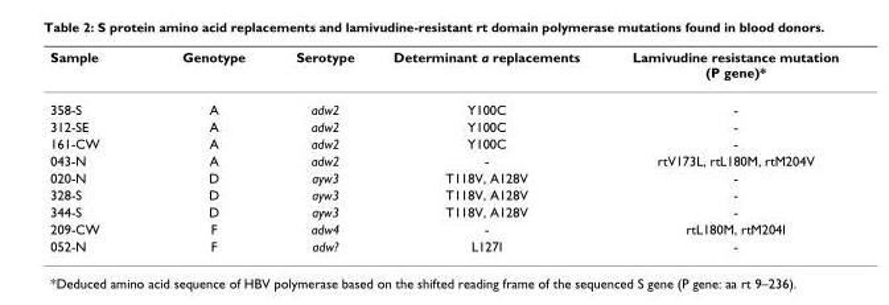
<table><thead><tr><td>Sample</td><td>Genotype</td><td>Serotype</td><td>Determinant a replacements</td><td>Lamivudine resistance mutation (P gene)*</td></tr></thead><tbody><tr><td>358-S</td><td>A</td><td>adw2</td><td>Y100C</td><td>-</td></tr><tr><td>312-SE</td><td>A</td><td>adw2</td><td>Y100C</td><td>-</td></tr><tr><td>161-CW</td><td>A</td><td>adw2</td><td>Y100C</td><td>-</td></tr><tr><td>043-N</td><td>A</td><td>adw2</td><td>-</td><td>rtV173L, rtL180M, rtM204V</td></tr><tr><td>020-N</td><td>D</td><td>ayw3</td><td>T118V, A128V</td><td>-</td></tr><tr><td>328-S</td><td>D</td><td>ayw3</td><td>T118V, A128V</td><td>-</td></tr><tr><td>344-S</td><td>D</td><td>ayw3</td><td>T118V, A128V</td><td>-</td></tr><tr><td>209-CW</td><td>F</td><td>adw4</td><td>-</td><td>rtL180M, rtM204I</td></tr><tr><td>052-N</td><td>F</td><td>adw?</td><td>L127I</td><td>-</td></tr></tbody></table>